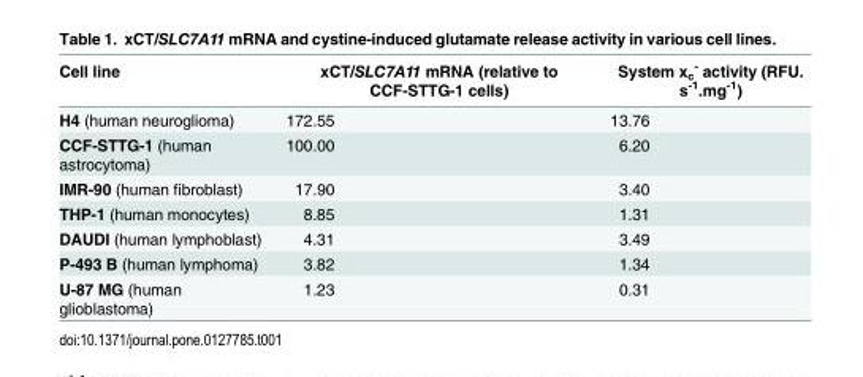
<table><thead><tr><td>Cell line</td><td>xCT/SLC7A11 mRNA (relative to CCF-STTG-1 cells)</td><td>System x<sub>c</sub> <sup>-</sup> activity (RFU. s<sup>-1</sup>.mg<sup>-1</sup>)</td></tr></thead><tbody><tr><td>H4 (human neuroglioma)</td><td>172.55</td><td>13.76</td></tr><tr><td>CCF-STTG-1 (human astrocytoma)</td><td>100.00</td><td>6.20</td></tr><tr><td>IMR-90 (human fibroblast)</td><td>17.90</td><td>3.40</td></tr><tr><td>THP-1 (human monocytes)</td><td>8.85</td><td>1.31</td></tr><tr><td>DAUDI (human lymphoblast)</td><td>4.31</td><td>3.49</td></tr><tr><td>P-493 B (human lymphoma)</td><td>3.82</td><td>1.34</td></tr><tr><td>U-87 MG (human glioblastoma)</td><td>1.23</td><td>0.31</td></tr></tbody></table>